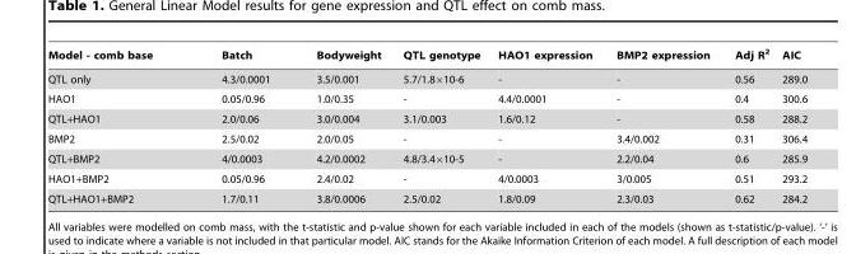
<table><thead><tr><td>Model - comb base</td><td>Batch</td><td>Bodyweight</td><td>QTL genotype</td><td>HAO1 expression</td><td>BMP2 expression</td><td>Adj R<sup>2</sup></td><td>AIC</td></tr></thead><tbody><tr><td>QTL only</td><td>4.3/0.0001</td><td>3.5/0.001</td><td>5.7/1.8×10-6</td><td>-</td><td>-</td><td>0.56</td><td>289.0</td></tr><tr><td>HAO1</td><td>0.05/0.96</td><td>1.0/0.35</td><td>-</td><td>4.4/0.0001</td><td>-</td><td>0.4</td><td>300.6</td></tr><tr><td>QTL+HAO1</td><td>2.0/0.06</td><td>3.0/0.004</td><td>3.1/0.003</td><td>1.6/0.12</td><td>-</td><td>0.58</td><td>288.2</td></tr><tr><td>BMP2</td><td>2.5/0.02</td><td>2.0/0.05</td><td>-</td><td>-</td><td>3.4/0.002</td><td>0.31</td><td>306.4</td></tr><tr><td>QTL+BMP2</td><td>4/0.0003</td><td>4.2/0.0002</td><td>4.8/3.4×10-5</td><td>-</td><td>2.2/0.04</td><td>0.6</td><td>285.9</td></tr><tr><td>HAO1+BMP2</td><td>0.05/0.96</td><td>2.4/0.02</td><td>-</td><td>4/0.0003</td><td>3/0.005</td><td>0.51</td><td>293.2</td></tr><tr><td>QTL+HAO1+BMP2</td><td>1.7/0.11</td><td>3.8/0.0006</td><td>2.5/0.02</td><td>1.8/0.09</td><td>2.3/0.03</td><td>0.62</td><td>284.2</td></tr></tbody></table>